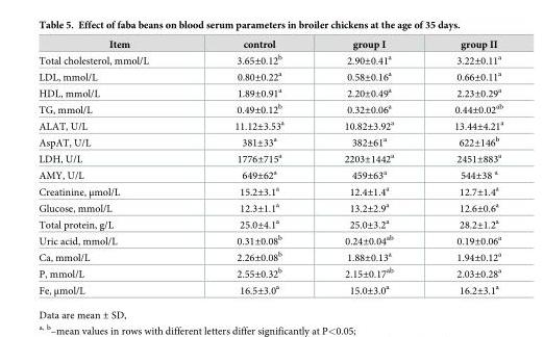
<table><thead><tr><td>Item</td><td>control</td><td>group I</td><td>group II</td></tr></thead><tbody><tr><td>Total cholesterol, mmol/L</td><td>3.65±0.12<sup>b</sup></td><td>2.90±0.41<sup>a</sup></td><td>3.22±0.11<sup>a</sup></td></tr><tr><td>LDL, mmol/L</td><td>0.80±0.22<sup>a</sup></td><td>0.58±0.16<sup>a</sup></td><td>0.66±0.11<sup>a</sup></td></tr><tr><td>HDL, mmol/L</td><td>1.89±0.91<sup>a</sup></td><td>2.20±0.49<sup>a</sup></td><td>2.23±0.29<sup>a</sup></td></tr><tr><td>TG, mmol/L</td><td>0.49±0.12<sup>b</sup></td><td>0.32±0.06<sup>a</sup></td><td>0.44±0.02<sup>ab</sup></td></tr><tr><td>ALAT, U/L</td><td>11.12±3.53<sup>a</sup></td><td>10.82±3.92<sup>a</sup></td><td>13.44±4.21<sup>a</sup></td></tr><tr><td>AspAT, U/L</td><td>381±33<sup>a</sup></td><td>382±61<sup>a</sup></td><td>622±146<sup>b</sup></td></tr><tr><td>LDH, U/L</td><td>1776±715<sup>a</sup></td><td>2203±1442<sup>a</sup></td><td>2451±883<sup>a</sup></td></tr><tr><td>AMY, U/L</td><td>649±62<sup>a</sup></td><td>459±63<sup>a</sup></td><td>544±38 <sup>a</sup></td></tr><tr><td>Creatinine, μmol/L</td><td>15.2±3.1<sup>a</sup></td><td>12.4±1.4<sup>a</sup></td><td>12.7±1.4<sup>a</sup></td></tr><tr><td>Glucose, mmol/L</td><td>12.3±1.1<sup>a</sup></td><td>13.2±2.9<sup>a</sup></td><td>12.6±0.6<sup>a</sup></td></tr><tr><td>Total protein, g/L</td><td>25.0±4.1<sup>a</sup></td><td>25.0±3.2<sup>a</sup></td><td>28.2±1.2<sup>a</sup></td></tr><tr><td>Uric acid, mmol/L</td><td>0.31±0.08<sup>b</sup></td><td>0.24±0.04<sup>ab</sup></td><td>0.19±0.06<sup>a</sup></td></tr><tr><td>Ca, mmol/L</td><td>2.26±0.08<sup>b</sup></td><td>1.88±0.13<sup>a</sup></td><td>1.94±0.12<sup>a</sup></td></tr><tr><td>P, mmol/L</td><td>2.55±0.32<sup>b</sup></td><td>2.15±0.17<sup>ab</sup></td><td>2.03±0.28<sup>a</sup></td></tr><tr><td>Fe, μmol/L</td><td>16.5±3.0<sup>a</sup></td><td>15.0±3.0<sup>a</sup></td><td>16.2±3.1<sup>a</sup></td></tr></tbody></table>